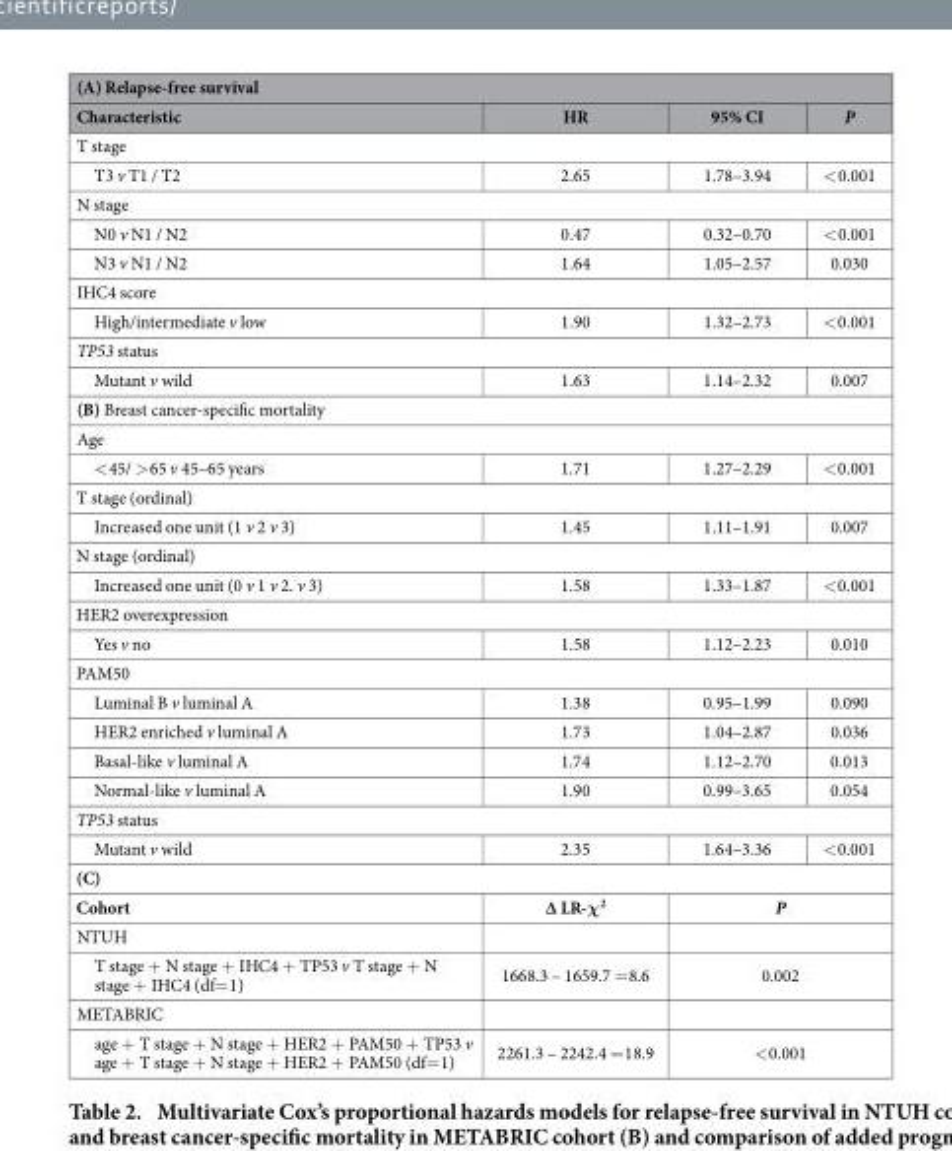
<table><thead><tr><td colspan="4">(A) Relapse-free survival</td></tr><tr><td>Characteristic</td><td>HR</td><td>95% CI</td><td>P</td></tr></thead><tbody><tr><td colspan="4">T stage</td></tr><tr><td>T3 v T1 / T2</td><td>2.65</td><td>1.78–3.94</td><td>&lt; 0.001</td></tr><tr><td colspan="4">N stage</td></tr><tr><td>N0 v N1 / N2</td><td>0.47</td><td>0.32–0.70</td><td>&lt; 0.001</td></tr><tr><td>N3 v N1 / N2</td><td>1.64</td><td>1.05–2.57</td><td>0.030</td></tr><tr><td colspan="4">IHC4 score</td></tr><tr><td>High/intermediate v low</td><td>1.90</td><td>1.32–2.73</td><td>&lt; 0.001</td></tr><tr><td colspan="4">TP53 status</td></tr><tr><td>Mutant v wild</td><td>1.63</td><td>1.14–2.32</td><td>0.007</td></tr><tr><td colspan="4">(B) Breast cancer-specific mortality</td></tr><tr><td colspan="4">Age</td></tr><tr><td>&lt; 45/ &gt; 65 v 45–65 years</td><td>1.71</td><td>1.27–2.29</td><td>&lt; 0.001</td></tr><tr><td colspan="4">T stage (ordinal)</td></tr><tr><td>Increased one unit (1 v 2 v 3)</td><td>1.45</td><td>1.11–1.91</td><td>0.007</td></tr><tr><td colspan="4">N stage (ordinal)</td></tr><tr><td>Increased one unit (0 v 1 v 2. v 3)</td><td>1.58</td><td>1.33–1.87</td><td>&lt; 0.001</td></tr><tr><td colspan="4">HER2 overexpression</td></tr><tr><td>Yes v no</td><td>1.58</td><td>1.12–2.23</td><td>0.010</td></tr><tr><td colspan="4">PAM50</td></tr><tr><td>Luminal B v luminal A</td><td>1.38</td><td>0.95–1.99</td><td>0.090</td></tr><tr><td>HER2 enriched v luminal A</td><td>1.73</td><td>1.04–2.87</td><td>0.036</td></tr><tr><td>Basal-like v luminal A</td><td>1.74</td><td>1.12–2.70</td><td>0.013</td></tr><tr><td>Normal-like v luminal A</td><td>1.90</td><td>0.99–3.65</td><td>0.054</td></tr><tr><td colspan="4">TP53 status</td></tr><tr><td>Mutant v wild</td><td>2.35</td><td>1.64–3.36</td><td>&lt; 0.001</td></tr><tr><td colspan="4">(C)</td></tr><tr><td>Cohort</td><td>∆ LR-χ<sup>2</sup></td><td colspan="2">P</td></tr><tr><td colspan="4">NTUH</td></tr><tr><td>T stage + N stage + IHC4 + TP53 v T stage + N stage + IHC4 (df= 1)</td><td>1668.3 – 1659.7 = 8.6</td><td colspan="2">0.002</td></tr><tr><td colspan="4">METABRIC</td></tr><tr><td>age + T stage + N stage + HER2 + PAM50 + TP53 v age + T stage + N stage + HER2 + PAM50 (df= 1)</td><td>2261.3 – 2242.4 = 18.9</td><td colspan="2">&lt; 0.001</td></tr></tbody></table>